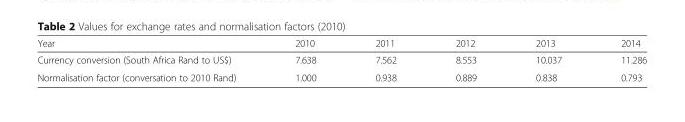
<table><thead><tr><td>Year</td><td>2010</td><td>2011</td><td>2012</td><td>2013</td><td>2014</td></tr></thead><tbody><tr><td>Currency conversion (South Africa Rand to US$)</td><td>7.638</td><td>7.562</td><td>8.553</td><td>10.037</td><td>11.286</td></tr><tr><td>Normalisation factor (conversation to 2010 Rand)</td><td>1.000</td><td>0.938</td><td>0.889</td><td>0.838</td><td>0.793</td></tr></tbody></table>